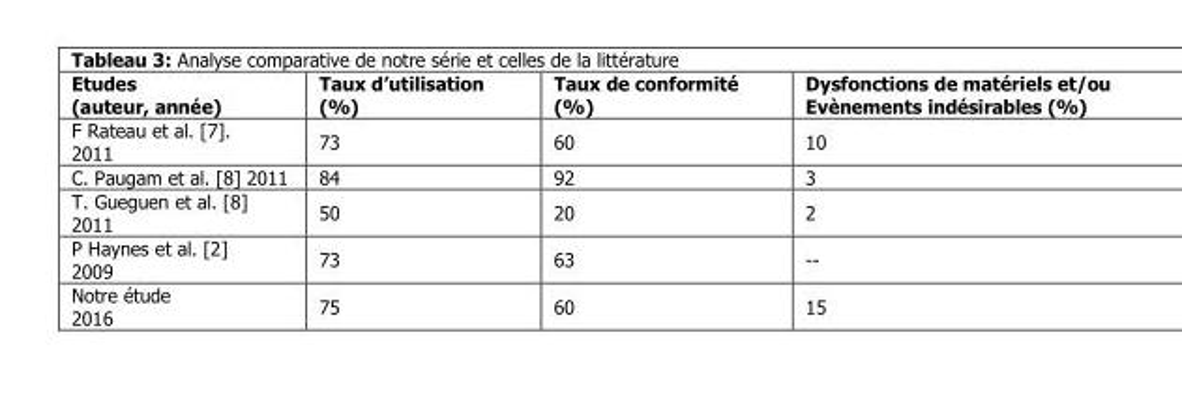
<table><thead><tr><td>Etudes (auteur, année)</td><td>Taux d’utilisation (%)</td><td>Taux de conformité (%)</td><td>Dysfonctions de matériels et/ou Evènements indésirables (%)</td></tr></thead><tbody><tr><td>F Rateau et al. [7]. 2011</td><td>73</td><td>60</td><td>10</td></tr><tr><td>C. Paugam et al. [8] 2011</td><td>84</td><td>92</td><td>3</td></tr><tr><td>T. Gueguen et al. [8] 2011</td><td>50</td><td>20</td><td>2</td></tr><tr><td>P Haynes et al. [2] 2009</td><td>73</td><td>63</td><td>--</td></tr><tr><td>Notre étude 2016</td><td>75</td><td>60</td><td>15</td></tr></tbody></table>